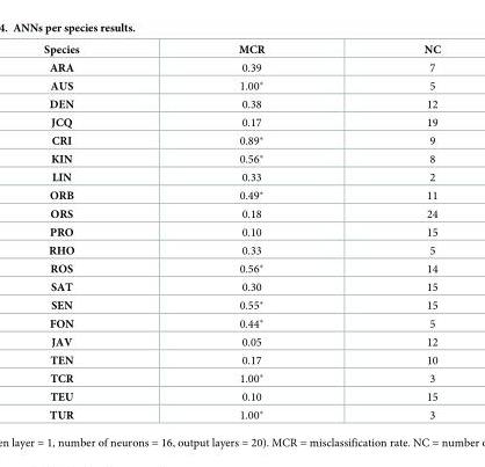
<table><thead><tr><td>Species</td><td>MCR</td><td>NC</td></tr></thead><tbody><tr><td>ARA</td><td>0.39</td><td>7</td></tr><tr><td>AUS</td><td>1.00*</td><td>5</td></tr><tr><td>DEN</td><td>0.38</td><td>12</td></tr><tr><td>JCQ</td><td>0.17</td><td>19</td></tr><tr><td>CRI</td><td>0.89*</td><td>9</td></tr><tr><td>KIN</td><td>0.56*</td><td>8</td></tr><tr><td>LIN</td><td>0.33</td><td>2</td></tr><tr><td>ORB</td><td>0.49*</td><td>11</td></tr><tr><td>ORS</td><td>0.18</td><td>24</td></tr><tr><td>PRO</td><td>0.10</td><td>15</td></tr><tr><td>RHO</td><td>0.33</td><td>5</td></tr><tr><td>ROS</td><td>0.56*</td><td>14</td></tr><tr><td>SAT</td><td>0.30</td><td>15</td></tr><tr><td>SEN</td><td>0.55*</td><td>15</td></tr><tr><td>FON</td><td>0.44*</td><td>5</td></tr><tr><td>JAV</td><td>0.05</td><td>12</td></tr><tr><td>TEN</td><td>0.17</td><td>10</td></tr><tr><td>TCR</td><td>1.00*</td><td>3</td></tr><tr><td>TEU</td><td>0.10</td><td>15</td></tr><tr><td>TUR</td><td>1.00*</td><td>3</td></tr></tbody></table>